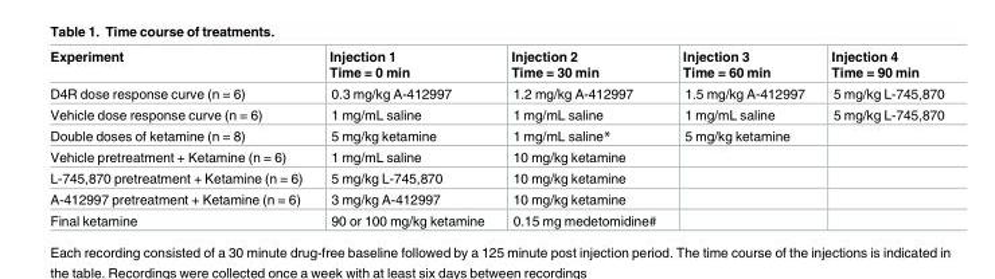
<table><thead><tr><td>Experiment</td><td>Injection 1 Time = 0 min</td><td>Injection 2 Time = 30 min</td><td>Injection 3 Time = 60 min</td><td>Injection 4 Time = 90 min</td></tr></thead><tbody><tr><td>D4R dose response curve (n = 6)</td><td>0.3 mg/kg A-412997</td><td>1.2 mg/kg A-412997</td><td>1.5 mg/kg A-412997</td><td>5 mg/kg L-745,870</td></tr><tr><td>Vehicle dose response curve (n = 6)</td><td>1 mg/mL saline</td><td>1 mg/mL saline</td><td>1 mg/mL saline</td><td>5 mg/kg L-745,870</td></tr><tr><td>Double doses of ketamine (n = 8)</td><td>5 mg/kg ketamine</td><td>1 mg/mL saline*</td><td>5 mg/kg ketamine</td><td></td></tr><tr><td>Vehicle pretreatment + Ketamine (n = 6)</td><td>1 mg/mL saline</td><td>10 mg/kg ketamine</td><td></td><td></td></tr><tr><td>L-745,870 pretreatment + Ketamine (n = 6)</td><td>5 mg/kg L-745,870</td><td>10 mg/kg ketamine</td><td></td><td></td></tr><tr><td>A-412997 pretreatment + Ketamine (n = 6)</td><td>3 mg/kg A-412997</td><td>10 mg/kg ketamine</td><td></td><td></td></tr><tr><td>Final ketamine</td><td>90 or 100 mg/kg ketamine</td><td>0.15 mg medetomidine#</td><td></td><td></td></tr></tbody></table>